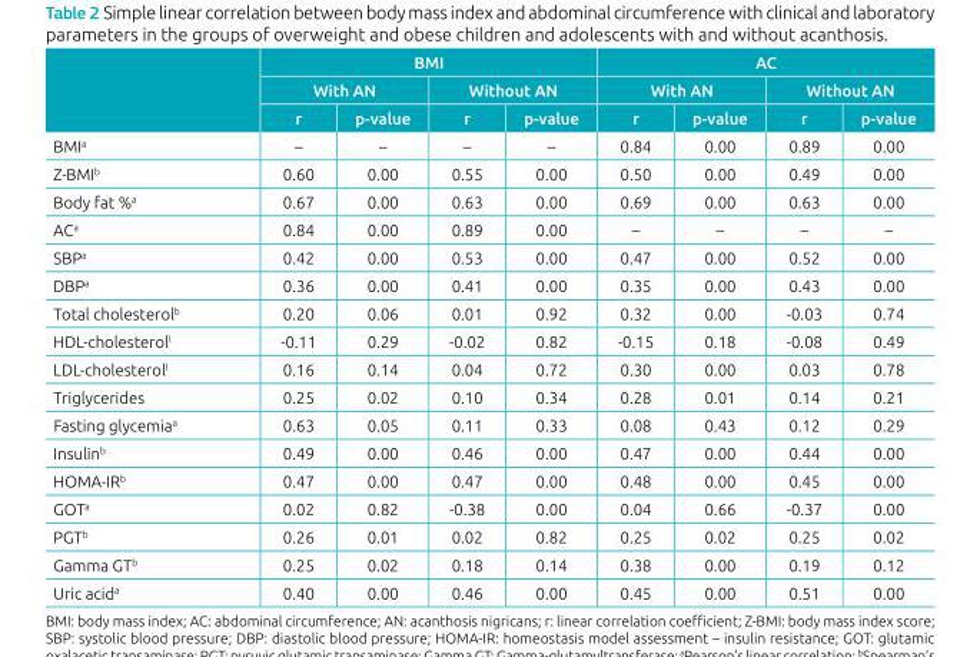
<table><thead><tr><td rowspan="3"></td><td colspan="4">BMI</td><td colspan="4">AC</td></tr><tr><td colspan="2">With AN</td><td colspan="2">Without AN</td><td colspan="2">With AN</td><td colspan="2">Without AN</td></tr><tr><td>r</td><td>p‑value</td><td>r</td><td>p‑value</td><td>r</td><td>p‑value</td><td>r</td><td>p‑value</td></tr></thead><tbody><tr><td>BMI<sup>a</sup></td><td>–</td><td>–</td><td>–</td><td>–</td><td>0.84</td><td>0.00</td><td>0.89</td><td>0.00</td></tr><tr><td>Z-BMI<sup>b</sup></td><td>0.60</td><td>0.00</td><td>0.55</td><td>0.00</td><td>0.50</td><td>0.00</td><td>0.49</td><td>0.00</td></tr><tr><td>Body fat %<sup>a</sup></td><td>0.67</td><td>0.00</td><td>0.63</td><td>0.00</td><td>0.69</td><td>0.00</td><td>0.63</td><td>0.00</td></tr><tr><td>AC<sup>a</sup></td><td>0.84</td><td>0.00</td><td>0.89</td><td>0.00</td><td>–</td><td>–</td><td>–</td><td>–</td></tr><tr><td>SBP<sup>a</sup></td><td>0.42</td><td>0.00</td><td>0.53</td><td>0.00</td><td>0.47</td><td>0.00</td><td>0.52</td><td>0.00</td></tr><tr><td>DBP<sup>a</sup></td><td>0.36</td><td>0.00</td><td>0.41</td><td>0.00</td><td>0.35</td><td>0.00</td><td>0.43</td><td>0.00</td></tr><tr><td>Total cholesterol<sup>b</sup></td><td>0.20</td><td>0.06</td><td>0.01</td><td>0.92</td><td>0.32</td><td>0.00</td><td>-0.03</td><td>0.74</td></tr><tr><td>HDL-cholesterol<sup>l</sup></td><td>-0.11</td><td>0.29</td><td>-0.02</td><td>0.82</td><td>-0.15</td><td>0.18</td><td>-0.08</td><td>0.49</td></tr><tr><td>LDL-cholesterol<sup>l</sup></td><td>0.16</td><td>0.14</td><td>0.04</td><td>0.72</td><td>0.30</td><td>0.00</td><td>0.03</td><td>0.78</td></tr><tr><td>Triglycerides</td><td>0.25</td><td>0.02</td><td>0.10</td><td>0.34</td><td>0.28</td><td>0.01</td><td>0.14</td><td>0.21</td></tr><tr><td>Fasting glycemia<sup>a</sup></td><td>0.63</td><td>0.05</td><td>0.11</td><td>0.33</td><td>0.08</td><td>0.43</td><td>0.12</td><td>0.29</td></tr><tr><td>Insulin<sup>b</sup></td><td>0.49</td><td>0.00</td><td>0.46</td><td>0.00</td><td>0.47</td><td>0.00</td><td>0.44</td><td>0.00</td></tr><tr><td>HOMA-IR<sup>b</sup></td><td>0.47</td><td>0.00</td><td>0.47</td><td>0.00</td><td>0.48</td><td>0.00</td><td>0.45</td><td>0.00</td></tr><tr><td>GOT<sup>a</sup></td><td>0.02</td><td>0.82</td><td>-0.38</td><td>0.00</td><td>0.04</td><td>0.66</td><td>-0.37</td><td>0.00</td></tr><tr><td>PGT<sup>b</sup></td><td>0.26</td><td>0.01</td><td>0.02</td><td>0.82</td><td>0.25</td><td>0.02</td><td>0.25</td><td>0.02</td></tr><tr><td>Gamma GT<sup>b</sup></td><td>0.25</td><td>0.02</td><td>0.18</td><td>0.14</td><td>0.38</td><td>0.00</td><td>0.19</td><td>0.12</td></tr><tr><td>Uric acid<sup>a</sup></td><td>0.40</td><td>0.00</td><td>0.46</td><td>0.00</td><td>0.45</td><td>0.00</td><td>0.51</td><td>0.00</td></tr></tbody></table>